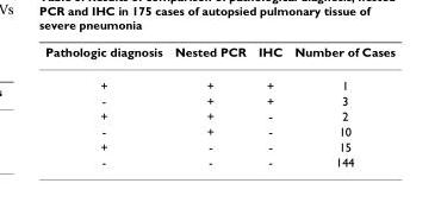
<table><thead><tr><td>Pathologic diagnosis</td><td>Nested PCR</td><td>IHC</td><td>Number of Cases</td></tr></thead><tbody><tr><td>+</td><td>+</td><td>+</td><td>1</td></tr><tr><td>-</td><td>+</td><td>+</td><td>3</td></tr><tr><td>+</td><td>+</td><td>-</td><td>2</td></tr><tr><td>-</td><td>+</td><td>-</td><td>10</td></tr><tr><td>+</td><td>-</td><td>-</td><td>15</td></tr><tr><td>-</td><td>-</td><td>-</td><td>144</td></tr></tbody></table>